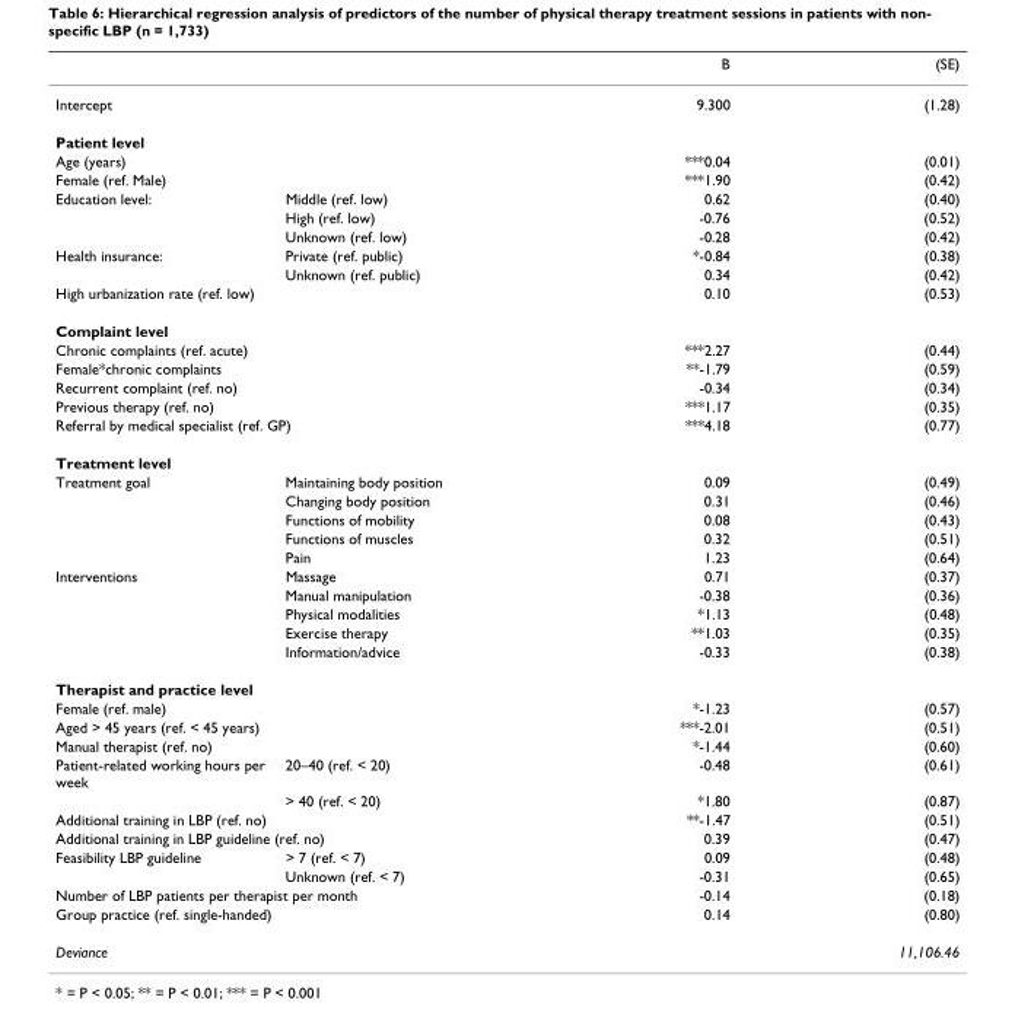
<table><thead><tr><td></td><td></td><td>B</td><td>(SE)</td></tr></thead><tbody><tr><td colspan="2">Intercept</td><td>9.300</td><td>(1.28)</td></tr><tr><td colspan="4">Patient level</td></tr><tr><td colspan="2">Age (years)</td><td>***0.04</td><td>(0.01)</td></tr><tr><td colspan="2">Female (ref. Male)</td><td>***1.90</td><td>(0.42)</td></tr><tr><td rowspan="3">Education level:</td><td>Middle (ref. low)</td><td>0.62</td><td>(0.40)</td></tr><tr><td>High (ref. low)</td><td>-0.76</td><td>(0.52)</td></tr><tr><td>Unknown (ref. low)</td><td>-0.28</td><td>(0.42)</td></tr><tr><td rowspan="2">Health insurance:</td><td>Private (ref. public)</td><td>*-0.84</td><td>(0.38)</td></tr><tr><td>Unknown (ref. public)</td><td>0.34</td><td>(0.42)</td></tr><tr><td colspan="2">High urbanization rate (ref. low)</td><td>0.10</td><td>(0.53)</td></tr><tr><td colspan="4">Complaint level</td></tr><tr><td colspan="2">Chronic complaints (ref. acute)</td><td>***2.27</td><td>(0.44)</td></tr><tr><td colspan="2">Female*chronic complaints</td><td>**-1.79</td><td>(0.59)</td></tr><tr><td colspan="2">Recurrent complaint (ref. no)</td><td>-0.34</td><td>(0.34)</td></tr><tr><td colspan="2">Previous therapy (ref. no)</td><td>***1.17</td><td>(0.35)</td></tr><tr><td colspan="2">Referral by medical specialist (ref. GP)</td><td>***4.18</td><td>(0.77)</td></tr><tr><td colspan="4">Treatment level</td></tr><tr><td rowspan="5">Treatment goal</td><td>Maintaining body position</td><td>0.09</td><td>(0.49)</td></tr><tr><td>Changing body position</td><td>0.31</td><td>(0.46)</td></tr><tr><td>Functions of mobility</td><td>0.08</td><td>(0.43)</td></tr><tr><td>Functions of muscles</td><td>0.32</td><td>(0.51)</td></tr><tr><td>Pain</td><td>1.23</td><td>(0.64)</td></tr><tr><td rowspan="5">Interventions</td><td>Massage</td><td>0.71</td><td>(0.37)</td></tr><tr><td>Manual manipulation</td><td>-0.38</td><td>(0.36)</td></tr><tr><td>Physical modalities</td><td>*1.13</td><td>(0.48)</td></tr><tr><td>Exercise therapy</td><td>**1.03</td><td>(0.35)</td></tr><tr><td>Information/advice</td><td>-0.33</td><td>(0.38)</td></tr><tr><td colspan="4">Therapist and practice level</td></tr><tr><td colspan="2">Female (ref. male)</td><td>*-1.23</td><td>(0.57)</td></tr><tr><td colspan="2">Aged &gt; 45 years (ref. &lt; 45 years)</td><td>***-2.01</td><td>(0.51)</td></tr><tr><td colspan="2">Manual therapist (ref. no)</td><td>*-1.44</td><td>(0.60)</td></tr><tr><td rowspan="2">Patient-related working hours per week</td><td>20–40 (ref. &lt; 20)</td><td>-0.48</td><td>(0.61)</td></tr><tr><td>&gt; 40 (ref. &lt; 20)</td><td>*1.80</td><td>(0.87)</td></tr><tr><td colspan="2">Additional training in LBP (ref. no)</td><td>**-1.47</td><td>(0.51)</td></tr><tr><td colspan="2">Additional training in LBP guideline (ref. no)</td><td>0.39</td><td>(0.47)</td></tr><tr><td rowspan="2">Feasibility LBP guideline</td><td>&gt; 7 (ref. &lt; 7)</td><td>0.09</td><td>(0.48)</td></tr><tr><td>Unknown (ref. &lt; 7)</td><td>-0.31</td><td>(0.65)</td></tr><tr><td colspan="2">Number of LBP patients per therapist per month</td><td>-0.14</td><td>(0.18)</td></tr><tr><td colspan="2">Group practice (ref. single-handed)</td><td>0.14</td><td>(0.80)</td></tr><tr><td colspan="2">Deviance</td><td colspan="2">11,106.46</td></tr></tbody></table>